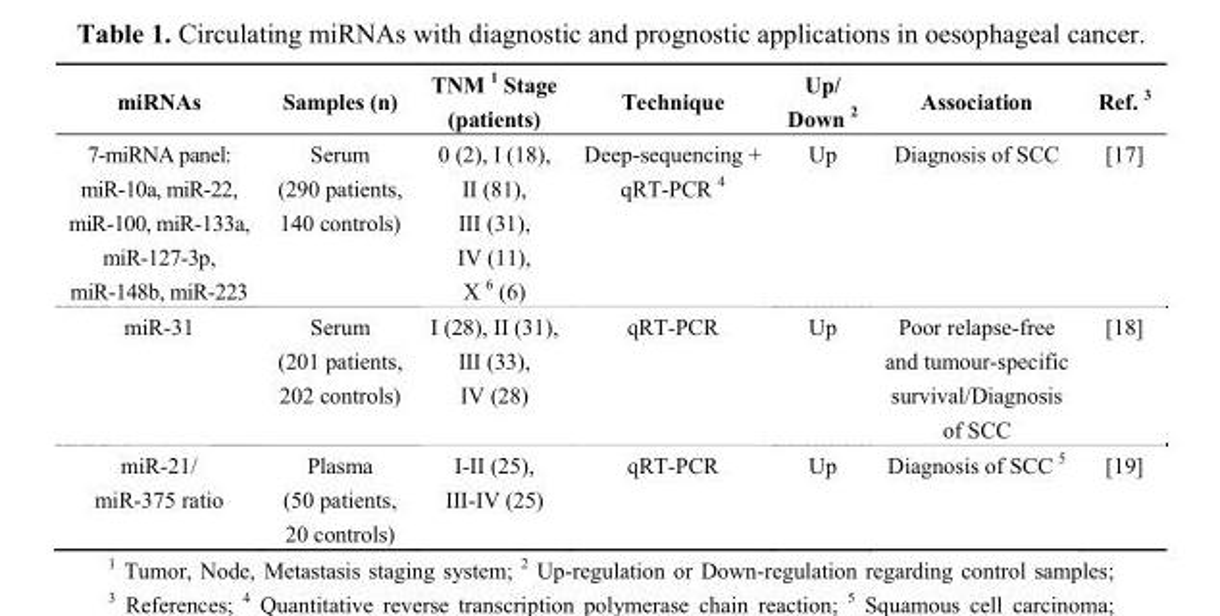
<table><thead><tr><td>miRNAs</td><td>Samples (n)</td><td>TNM <sup>1</sup> Stage (patients)</td><td>Technique</td><td>Up/ Down <sup>2</sup></td><td>Association</td><td>Ref. <sup>3</sup></td></tr></thead><tbody><tr><td>7-miRNA panel: miR-10a, miR-22, miR-100, miR-133a, miR-127-3p, miR-148b, miR-223</td><td>Serum (290 patients, 140 controls)</td><td>0 (2), I (18), II (81), III (31), IV (11), X <sup>6</sup> (6)</td><td>Deep-sequencing + qRT-PCR <sup>4</sup></td><td>Up</td><td>Diagnosis of SCC</td><td>[17]</td></tr><tr><td>miR-31</td><td>Serum (201 patients, 202 controls)</td><td>I (28), II (31), III (33), IV (28)</td><td>qRT-PCR</td><td>Up</td><td>Poor relapse-free and tumour-specific survival/Diagnosis of SCC</td><td>[18]</td></tr><tr><td>miR-21/ miR-375 ratio</td><td>Plasma (50 patients, 20 controls)</td><td>I-II (25), III-IV (25)</td><td>qRT-PCR</td><td>Up</td><td>Diagnosis of SCC <sup>5</sup></td><td>[19]</td></tr></tbody></table>